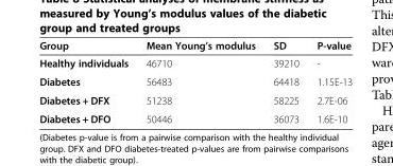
<table><thead><tr><td>Group</td><td>Mean Young’s modulus</td><td>SD</td><td>P-value</td></tr></thead><tbody><tr><td>Healthy individuals</td><td>46710</td><td>39210</td><td>-</td></tr><tr><td>Diabetes</td><td>56483</td><td>64418</td><td>1.15E-13</td></tr><tr><td>Diabetes + DFX</td><td>51238</td><td>58225</td><td>2.7E-06</td></tr><tr><td>Diabetes + DFO</td><td>50446</td><td>36073</td><td>1.6E-10</td></tr></tbody></table>